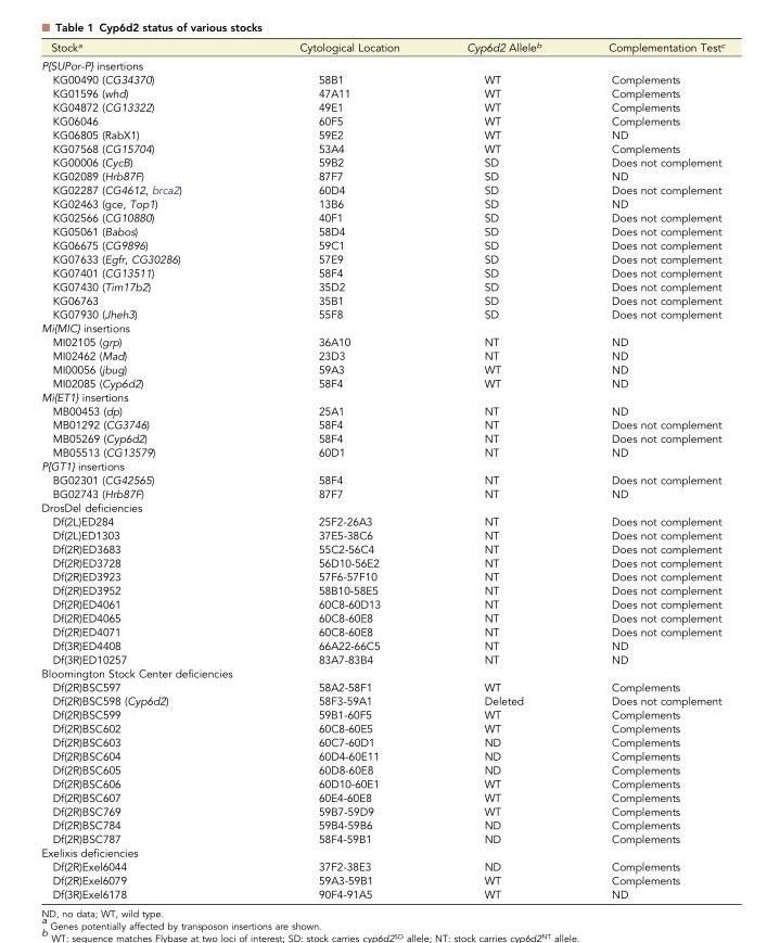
<table><thead><tr><td>Stock<sup>a</sup></td><td>Cytological Location</td><td>Cyp6d2 Allele<sup>b</sup></td><td>Complementation Test<sup>c</sup></td></tr></thead><tbody><tr><td colspan="4">P{SUPor-P} insertions</td></tr><tr><td>KG00490 (CG34370)</td><td>58B1</td><td>WT</td><td>Complements</td></tr><tr><td>KG01596 (whd)</td><td>47A11</td><td>WT</td><td>Complements</td></tr><tr><td>KG04872 (CG13322)</td><td>49E1</td><td>WT</td><td>Complements</td></tr><tr><td>KG06046</td><td>60F5</td><td>WT</td><td>Complements</td></tr><tr><td>KG06805 (RabX1)</td><td>59E2</td><td>WT</td><td>ND</td></tr><tr><td>KG07568 (CG15704)</td><td>53A4</td><td>WT</td><td>Complements</td></tr><tr><td>KG00006 (CycB)</td><td>59B2</td><td>SD</td><td>Does not complement</td></tr><tr><td>KG02089 (Hrb87F)</td><td>87F7</td><td>SD</td><td>ND</td></tr><tr><td>KG02287 (CG4612, brca2)</td><td>60D4</td><td>SD</td><td>Does not complement</td></tr><tr><td>KG02463 (gce, Top1)</td><td>13B6</td><td>SD</td><td>ND</td></tr><tr><td>KG02566 (CG10880)</td><td>40F1</td><td>SD</td><td>Does not complement</td></tr><tr><td>KG05061 (Babos)</td><td>58D4</td><td>SD</td><td>Does not complement</td></tr><tr><td>KG06675 (CG9896)</td><td>59C1</td><td>SD</td><td>Does not complement</td></tr><tr><td>KG07633 (Egfr, CG30286)</td><td>57E9</td><td>SD</td><td>Does not complement</td></tr><tr><td>KG07401 (CG13511)</td><td>58F4</td><td>SD</td><td>Does not complement</td></tr><tr><td>KG07430 (Tim17b2)</td><td>35D2</td><td>SD</td><td>Does not complement</td></tr><tr><td>KG06763</td><td>35B1</td><td>SD</td><td>Does not complement</td></tr><tr><td>KG07930 (Jheh3)</td><td>55F8</td><td>SD</td><td>Does not complement</td></tr><tr><td colspan="4">Mi{MIC} insertions</td></tr><tr><td>MI02105 (grp)</td><td>36A10</td><td>NT</td><td>ND</td></tr><tr><td>MI02462 (Mad)</td><td>23D3</td><td>NT</td><td>ND</td></tr><tr><td>MI00056 (jbug)</td><td>59A3</td><td>WT</td><td>ND</td></tr><tr><td>MI02085 (Cyp6d2)</td><td>58F4</td><td>WT</td><td>ND</td></tr><tr><td colspan="4">Mi{ET1} insertions</td></tr><tr><td>MB00453 (dp)</td><td>25A1</td><td>NT</td><td>ND</td></tr><tr><td>MB01292 (CG3746)</td><td>58F4</td><td>NT</td><td>Does not complement</td></tr><tr><td>MB05269 (Cyp6d2)</td><td>58F4</td><td>NT</td><td>Does not complement</td></tr><tr><td>MB05513 (CG13579)</td><td>60D1</td><td>NT</td><td>ND</td></tr><tr><td colspan="4">P{GT1} insertions</td></tr><tr><td>BG02301 (CG42565)</td><td>58F4</td><td>NT</td><td>Does not complement</td></tr><tr><td>BG02743 (Hrb87F)</td><td>87F7</td><td>NT</td><td>ND</td></tr><tr><td colspan="4">DrosDel deficiencies</td></tr><tr><td>Df(2L)ED284</td><td>25F2-26A3</td><td>NT</td><td>Does not complement</td></tr><tr><td>Df(2L)ED1303</td><td>37E5-38C6</td><td>NT</td><td>Does not complement</td></tr><tr><td>Df(2R)ED3683</td><td>55C2-56C4</td><td>NT</td><td>Does not complement</td></tr><tr><td>Df(2R)ED3728</td><td>56D10-56E2</td><td>NT</td><td>Does not complement</td></tr><tr><td>Df(2R)ED3923</td><td>57F6-57F10</td><td>NT</td><td>Does not complement</td></tr><tr><td>Df(2R)ED3952</td><td>58B10-58E5</td><td>NT</td><td>Does not complement</td></tr><tr><td>Df(2R)ED4061</td><td>60C8-60D13</td><td>NT</td><td>Does not complement</td></tr><tr><td>Df(2R)ED4065</td><td>60C8-60E8</td><td>NT</td><td>Does not complement</td></tr><tr><td>Df(2R)ED4071</td><td>60C8-60E8</td><td>NT</td><td>Does not complement</td></tr><tr><td>Df(3R)ED4408</td><td>66A22-66C5</td><td>NT</td><td>ND</td></tr><tr><td>Df(3R)ED10257</td><td>83A7-83B4</td><td>NT</td><td>ND</td></tr><tr><td colspan="4">Bloomington Stock Center deficiencies</td></tr><tr><td>Df(2R)BSC597</td><td>58A2-58F1</td><td>WT</td><td>Complements</td></tr><tr><td>Df(2R)BSC598 (Cyp6d2)</td><td>58F3-59A1</td><td>Deleted</td><td>Does not complement</td></tr><tr><td>Df(2R)BSC599</td><td>59B1-60F5</td><td>WT</td><td>Complements</td></tr><tr><td>Df(2R)BSC602</td><td>60C8-60E5</td><td>WT</td><td>Complements</td></tr><tr><td>Df(2R)BSC603</td><td>60C7-60D1</td><td>ND</td><td>Complements</td></tr><tr><td>Df(2R)BSC604</td><td>60D4-60E11</td><td>ND</td><td>Complements</td></tr><tr><td>Df(2R)BSC605</td><td>60D8-60E8</td><td>ND</td><td>Complements</td></tr><tr><td>Df(2R)BSC606</td><td>60D10-60E1</td><td>WT</td><td>Complements</td></tr><tr><td>Df(2R)BSC607</td><td>60E4-60E8</td><td>WT</td><td>Complements</td></tr><tr><td>Df(2R)BSC769</td><td>59B7-59D9</td><td>WT</td><td>Complements</td></tr><tr><td>Df(2R)BSC784</td><td>59B4-59B6</td><td>ND</td><td>Complements</td></tr><tr><td>Df(2R)BSC787</td><td>58F4-59B1</td><td>ND</td><td>Complements</td></tr><tr><td colspan="4">Exelixis deficiencies</td></tr><tr><td>Df(2R)Exel6044</td><td>37F2-38E3</td><td>ND</td><td>Complements</td></tr><tr><td>Df(2R)Exel6079</td><td>59A3-59B1</td><td>WT</td><td>Complements</td></tr><tr><td>Df(3R)Exel6178</td><td>90F4-91A5</td><td>WT</td><td>ND</td></tr></tbody></table>